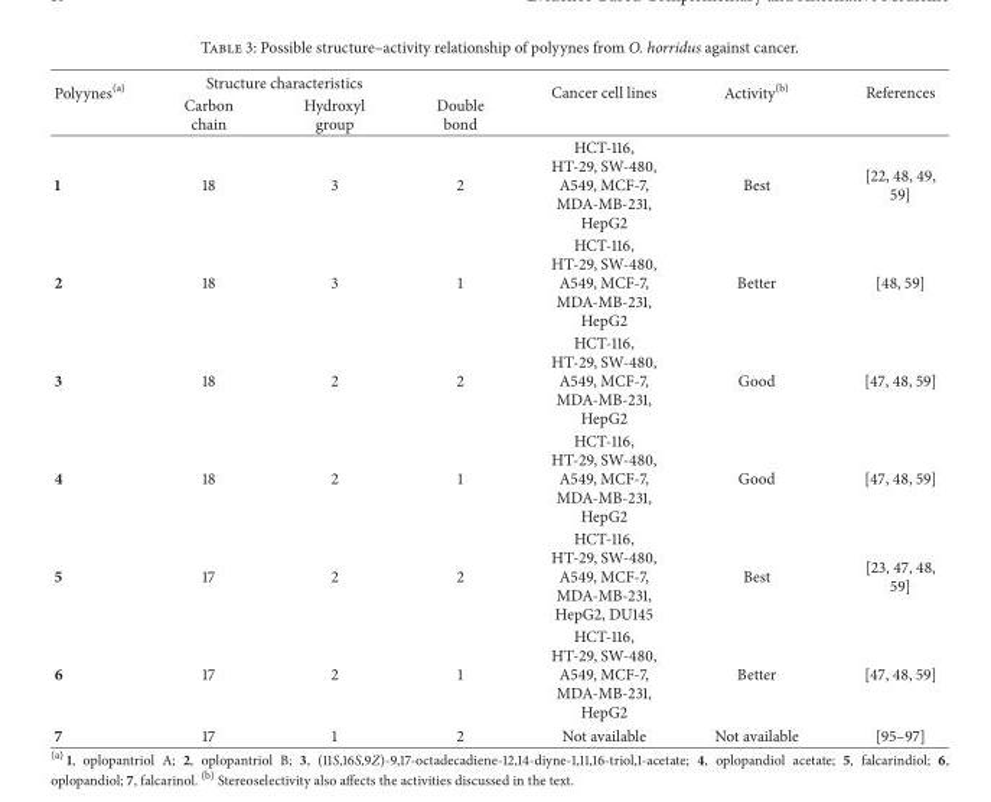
<table><thead><tr><td rowspan="2">Polyynes<sup>(a)</sup></td><td colspan="3">Structure characteristics</td><td rowspan="2">Cancer cell lines</td><td rowspan="2">Activity<sup>(b)</sup></td><td rowspan="2">References</td></tr><tr><td>Carbon chain</td><td>Hydroxyl group</td><td>Double bond</td></tr></thead><tbody><tr><td>1</td><td>18</td><td>3</td><td>2</td><td>HCT-116, HT-29, SW-480, A549, MCF-7, MDA-MB-231, HepG2</td><td>Best</td><td>[22, 48, 49, 59]</td></tr><tr><td>2</td><td>18</td><td>3</td><td>1</td><td>HCT-116, HT-29, SW-480, A549, MCF-7, MDA-MB-231, HepG2</td><td>Better</td><td>[48, 59]</td></tr><tr><td>3</td><td>18</td><td>2</td><td>2</td><td>HCT-116, HT-29, SW-480, A549, MCF-7, MDA-MB-231, HepG2</td><td>Good</td><td>[47, 48, 59]</td></tr><tr><td>4</td><td>18</td><td>2</td><td>1</td><td>HCT-116, HT-29, SW-480, A549, MCF-7, MDA-MB-231, HepG2</td><td>Good</td><td>[47, 48, 59]</td></tr><tr><td>5</td><td>17</td><td>2</td><td>2</td><td>HCT-116, HT-29, SW-480, A549, MCF-7, MDA-MB-231, HepG2, DU145</td><td>Best</td><td>[23, 47, 48, 59]</td></tr><tr><td>6</td><td>17</td><td>2</td><td>1</td><td>HCT-116, HT-29, SW-480, A549, MCF-7, MDA-MB-231, HepG2</td><td>Better</td><td>[47, 48, 59]</td></tr><tr><td>7</td><td>17</td><td>1</td><td>2</td><td>Not available</td><td>Not available</td><td>[95–97]</td></tr></tbody></table>